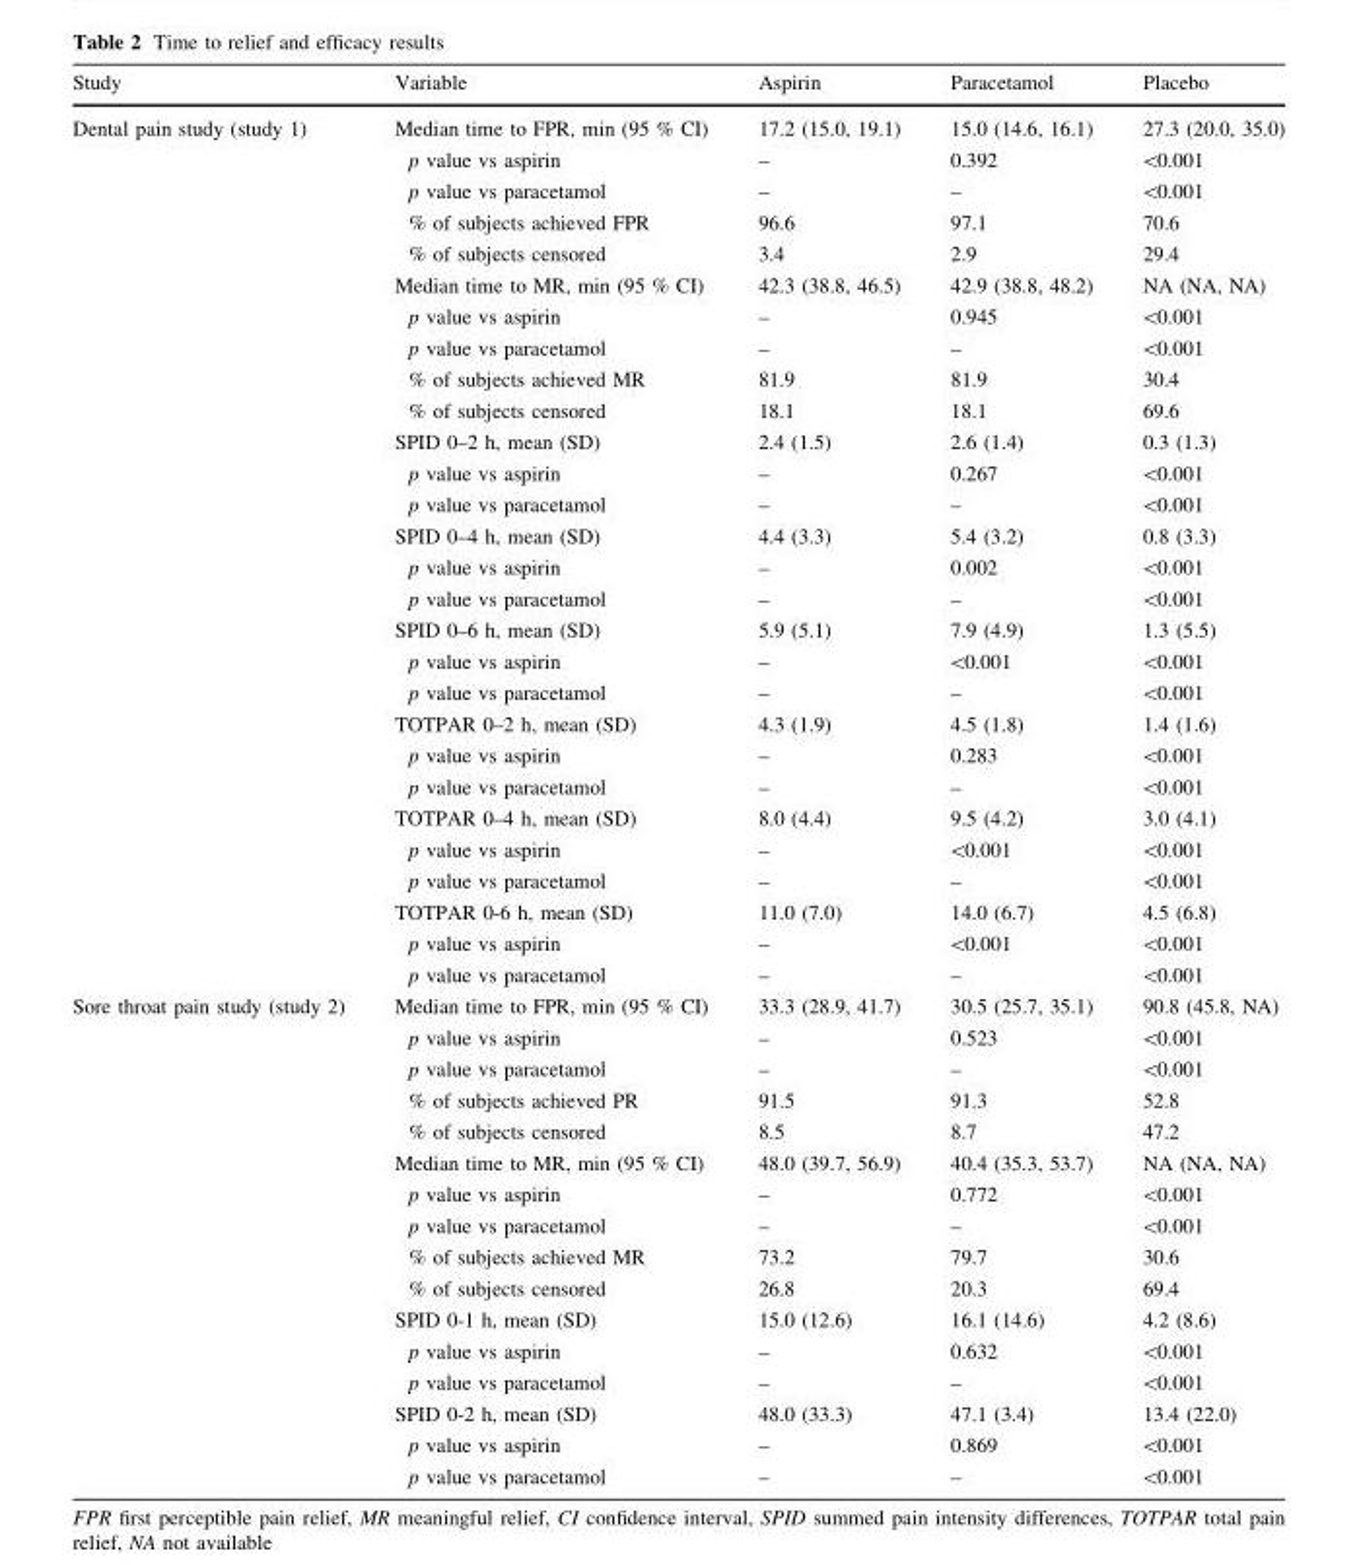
<table><thead><tr><td>Study</td><td>Variable</td><td>Aspirin</td><td>Paracetamol</td><td>Placebo</td></tr></thead><tbody><tr><td rowspan="28">Dental pain study (study 1)</td><td>Median time to FPR, min (95 % CI)</td><td>17.2 (15.0, 19.1)</td><td>15.0 (14.6, 16.1)</td><td>27.3 (20.0, 35.0)</td></tr><tr><td>p value vs aspirin</td><td>–</td><td>0.392</td><td>&lt;0.001</td></tr><tr><td>p value vs paracetamol</td><td>–</td><td>–</td><td>&lt;0.001</td></tr><tr><td>% of subjects achieved FPR</td><td>96.6</td><td>97.1</td><td>70.6</td></tr><tr><td>% of subjects censored</td><td>3.4</td><td>2.9</td><td>29.4</td></tr><tr><td>Median time to MR, min (95 % CI)</td><td>42.3 (38.8, 46.5)</td><td>42.9 (38.8, 48.2)</td><td>NA (NA, NA)</td></tr><tr><td>p value vs aspirin</td><td>–</td><td>0.945</td><td>&lt;0.001</td></tr><tr><td>p value vs paracetamol</td><td>–</td><td>–</td><td>&lt;0.001</td></tr><tr><td>% of subjects achieved MR</td><td>81.9</td><td>81.9</td><td>30.4</td></tr><tr><td>% of subjects censored</td><td>18.1</td><td>18.1</td><td>69.6</td></tr><tr><td>SPID 0–2 h, mean (SD)</td><td>2.4 (1.5)</td><td>2.6 (1.4)</td><td>0.3 (1.3)</td></tr><tr><td>p value vs aspirin</td><td>–</td><td>0.267</td><td>&lt;0.001</td></tr><tr><td>p value vs paracetamol</td><td>–</td><td>–</td><td>&lt;0.001</td></tr><tr><td>SPID 0–4 h, mean (SD)</td><td>4.4 (3.3)</td><td>5.4 (3.2)</td><td>0.8 (3.3)</td></tr><tr><td>p value vs aspirin</td><td>–</td><td>0.002</td><td>&lt;0.001</td></tr><tr><td>p value vs paracetamol</td><td>–</td><td>–</td><td>&lt;0.001</td></tr><tr><td>SPID 0–6 h, mean (SD)</td><td>5.9 (5.1)</td><td>7.9 (4.9)</td><td>1.3 (5.5)</td></tr><tr><td>p value vs aspirin</td><td>–</td><td>&lt;0.001</td><td>&lt;0.001</td></tr><tr><td>p value vs paracetamol</td><td>–</td><td>–</td><td>&lt;0.001</td></tr><tr><td>TOTPAR 0–2 h, mean (SD)</td><td>4.3 (1.9)</td><td>4.5 (1.8)</td><td>1.4 (1.6)</td></tr><tr><td>p value vs aspirin</td><td>–</td><td>0.283</td><td>&lt;0.001</td></tr><tr><td>p value vs paracetamol</td><td>–</td><td>–</td><td>&lt;0.001</td></tr><tr><td>TOTPAR 0–4 h, mean (SD)</td><td>8.0 (4.4)</td><td>9.5 (4.2)</td><td>3.0 (4.1)</td></tr><tr><td>p value vs aspirin</td><td>–</td><td>&lt;0.001</td><td>&lt;0.001</td></tr><tr><td>p value vs paracetamol</td><td>–</td><td>–</td><td>&lt;0.001</td></tr><tr><td>TOTPAR 0-6 h, mean (SD)</td><td>11.0 (7.0)</td><td>14.0 (6.7)</td><td>4.5 (6.8)</td></tr><tr><td>p value vs aspirin</td><td>–</td><td>&lt;0.001</td><td>&lt;0.001</td></tr><tr><td>p value vs paracetamol</td><td>–</td><td>–</td><td>&lt;0.001</td></tr><tr><td rowspan="16">Sore throat pain study (study 2)</td><td>Median time to FPR, min (95 % CI)</td><td>33.3 (28.9, 41.7)</td><td>30.5 (25.7, 35.1)</td><td>90.8 (45.8, NA)</td></tr><tr><td>p value vs aspirin</td><td>–</td><td>0.523</td><td>&lt;0.001</td></tr><tr><td>p value vs paracetamol</td><td>–</td><td>–</td><td>&lt;0.001</td></tr><tr><td>% of subjects achieved PR</td><td>91.5</td><td>91.3</td><td>52.8</td></tr><tr><td>% of subjects censored</td><td>8.5</td><td>8.7</td><td>47.2</td></tr><tr><td>Median time to MR, min (95 % CI)</td><td>48.0 (39.7, 56.9)</td><td>40.4 (35.3, 53.7)</td><td>NA (NA, NA)</td></tr><tr><td>p value vs aspirin</td><td>–</td><td>0.772</td><td>&lt;0.001</td></tr><tr><td>p value vs paracetamol</td><td>–</td><td>–</td><td>&lt;0.001</td></tr><tr><td>% of subjects achieved MR</td><td>73.2</td><td>79.7</td><td>30.6</td></tr><tr><td>% of subjects censored</td><td>26.8</td><td>20.3</td><td>69.4</td></tr><tr><td>SPID 0-1 h, mean (SD)</td><td>15.0 (12.6)</td><td>16.1 (14.6)</td><td>4.2 (8.6)</td></tr><tr><td>p value vs aspirin</td><td>–</td><td>0.632</td><td>&lt;0.001</td></tr><tr><td>p value vs paracetamol</td><td>–</td><td>–</td><td>&lt;0.001</td></tr><tr><td>SPID 0-2 h, mean (SD)</td><td>48.0 (33.3)</td><td>47.1 (3.4)</td><td>13.4 (22.0)</td></tr><tr><td>p value vs aspirin</td><td>–</td><td>0.869</td><td>&lt;0.001</td></tr><tr><td>p value vs paracetamol</td><td>–</td><td>–</td><td>&lt;0.001</td></tr></tbody></table>